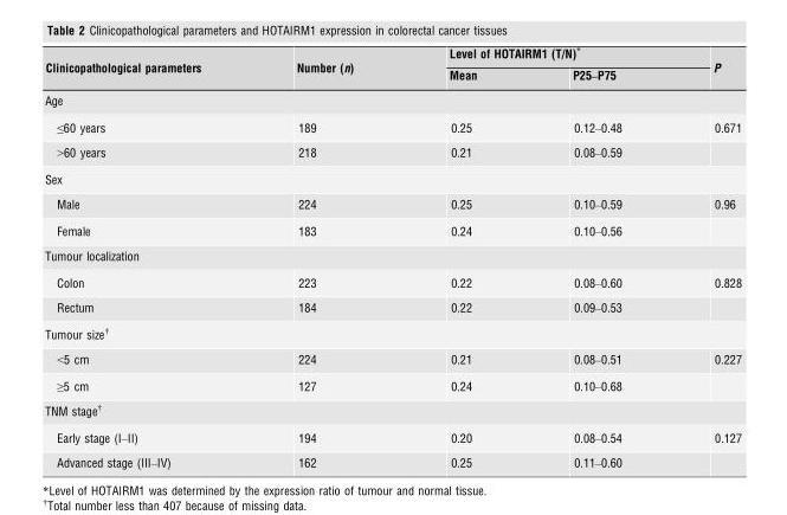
<table><thead><tr><td rowspan="2">Clinicopathological parameters</td><td rowspan="2">Number (n)</td><td colspan="2">Level of HOTAIRM1 (T/N)*</td><td rowspan="2">P</td></tr><tr><td>Mean</td><td>P25–P75</td></tr></thead><tbody><tr><td colspan="5">Age</td></tr><tr><td>≤60 years</td><td>189</td><td>0.25</td><td>0.12–0.48</td><td>0.671</td></tr><tr><td>&gt;60 years</td><td>218</td><td>0.21</td><td>0.08–0.59</td><td></td></tr><tr><td colspan="5">Sex</td></tr><tr><td>Male</td><td>224</td><td>0.25</td><td>0.10–0.59</td><td>0.96</td></tr><tr><td>Female</td><td>183</td><td>0.24</td><td>0.10–0.56</td><td></td></tr><tr><td colspan="5">Tumour localization</td></tr><tr><td>Colon</td><td>223</td><td>0.22</td><td>0.08–0.60</td><td>0.828</td></tr><tr><td>Rectum</td><td>184</td><td>0.22</td><td>0.09–0.53</td><td></td></tr><tr><td colspan="5">Tumour size†</td></tr><tr><td>&lt;5 cm</td><td>224</td><td>0.21</td><td>0.08–0.51</td><td>0.227</td></tr><tr><td>≥5 cm</td><td>127</td><td>0.24</td><td>0.10–0.68</td><td></td></tr><tr><td colspan="5">TNM stage†</td></tr><tr><td>Early stage (I–II)</td><td>194</td><td>0.20</td><td>0.08–0.54</td><td>0.127</td></tr><tr><td>Advanced stage (III–IV)</td><td>162</td><td>0.25</td><td>0.11–0.60</td><td></td></tr></tbody></table>